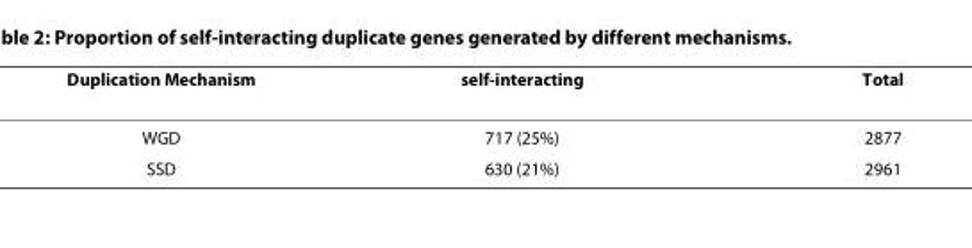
<table><thead><tr><td>Duplication Mechanism</td><td>self-interacting</td><td>Total</td></tr></thead><tbody><tr><td>WGD</td><td>717 (25%)</td><td>2877</td></tr><tr><td>SSD</td><td>630 (21%)</td><td>2961</td></tr></tbody></table>